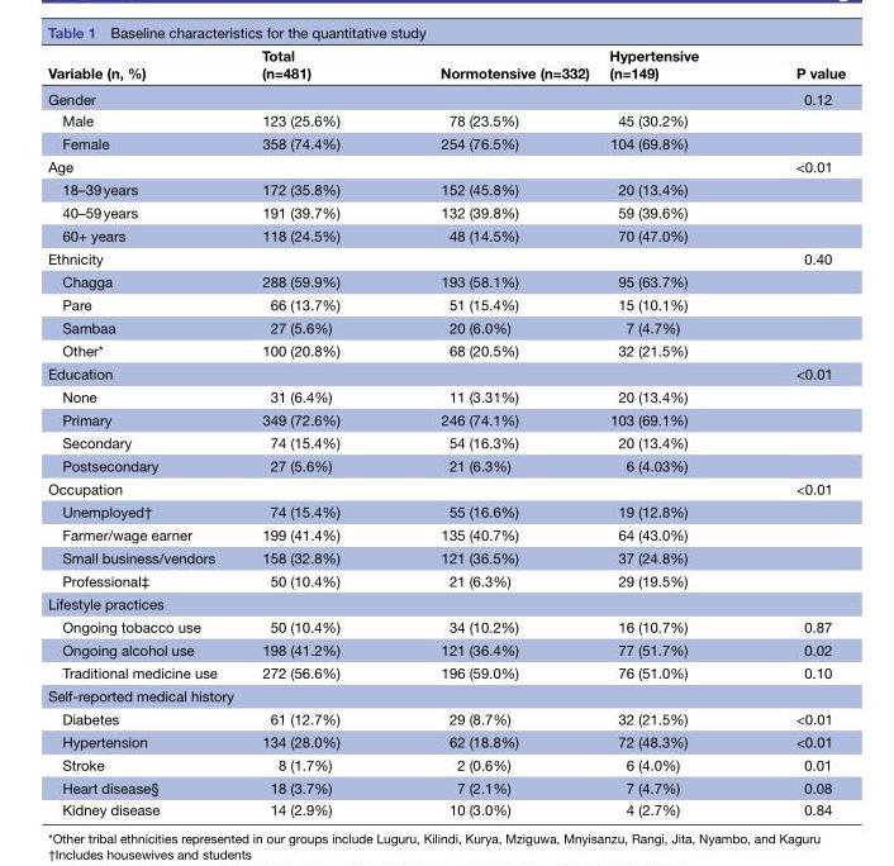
<table><thead><tr><td>Variable (n, %)</td><td>Total (n=481)</td><td>Normotensive (n=332)</td><td>Hypertensive (n=149)</td><td>P value</td></tr></thead><tbody><tr><td>Gender</td><td></td><td></td><td></td><td>0.12</td></tr><tr><td>Male</td><td>123 (25.6%)</td><td>78 (23.5%)</td><td>45 (30.2%)</td><td></td></tr><tr><td>Female</td><td>358 (74.4%)</td><td>254 (76.5%)</td><td>104 (69.8%)</td><td></td></tr><tr><td>Age</td><td></td><td></td><td></td><td>&lt;0.01</td></tr><tr><td>18–39 years</td><td>172 (35.8%)</td><td>152 (45.8%)</td><td>20 (13.4%)</td><td></td></tr><tr><td>40–59 years</td><td>191 (39.7%)</td><td>132 (39.8%)</td><td>59 (39.6%)</td><td></td></tr><tr><td>60+ years</td><td>118 (24.5%)</td><td>48 (14.5%)</td><td>70 (47.0%)</td><td></td></tr><tr><td>Ethnicity</td><td></td><td></td><td></td><td>0.40</td></tr><tr><td>Chagga</td><td>288 (59.9%)</td><td>193 (58.1%)</td><td>95 (63.7%)</td><td></td></tr><tr><td>Pare</td><td>66 (13.7%)</td><td>51 (15.4%)</td><td>15 (10.1%)</td><td></td></tr><tr><td>Sambaa</td><td>27 (5.6%)</td><td>20 (6.0%)</td><td>7 (4.7%)</td><td></td></tr><tr><td>Other*</td><td>100 (20.8%)</td><td>68 (20.5%)</td><td>32 (21.5%)</td><td></td></tr><tr><td>Education</td><td></td><td></td><td></td><td>&lt;0.01</td></tr><tr><td>None</td><td>31 (6.4%)</td><td>11 (3.31%)</td><td>20 (13.4%)</td><td></td></tr><tr><td>Primary</td><td>349 (72.6%)</td><td>246 (74.1%)</td><td>103 (69.1%)</td><td></td></tr><tr><td>Secondary</td><td>74 (15.4%)</td><td>54 (16.3%)</td><td>20 (13.4%)</td><td></td></tr><tr><td>Postsecondary</td><td>27 (5.6%)</td><td>21 (6.3%)</td><td>6 (4.03%)</td><td></td></tr><tr><td>Occupation</td><td></td><td></td><td></td><td>&lt;0.01</td></tr><tr><td>Unemployed†</td><td>74 (15.4%)</td><td>55 (16.6%)</td><td>19 (12.8%)</td><td></td></tr><tr><td>Farmer/wage earner</td><td>199 (41.4%)</td><td>135 (40.7%)</td><td>64 (43.0%)</td><td></td></tr><tr><td>Small business/vendors</td><td>158 (32.8%)</td><td>121 (36.5%)</td><td>37 (24.8%)</td><td></td></tr><tr><td>Professional‡</td><td>50 (10.4%)</td><td>21 (6.3%)</td><td>29 (19.5%)</td><td></td></tr><tr><td colspan="5">Lifestyle practices</td></tr><tr><td>Ongoing tobacco use</td><td>50 (10.4%)</td><td>34 (10.2%)</td><td>16 (10.7%)</td><td>0.87</td></tr><tr><td>Ongoing alcohol use</td><td>198 (41.2%)</td><td>121 (36.4%)</td><td>77 (51.7%)</td><td>0.02</td></tr><tr><td>Traditional medicine use</td><td>272 (56.6%)</td><td>196 (59.0%)</td><td>76 (51.0%)</td><td>0.10</td></tr><tr><td colspan="5">Self-reported medical history</td></tr><tr><td>Diabetes</td><td>61 (12.7%)</td><td>29 (8.7%)</td><td>32 (21.5%)</td><td>&lt;0.01</td></tr><tr><td>Hypertension</td><td>134 (28.0%)</td><td>62 (18.8%)</td><td>72 (48.3%)</td><td>&lt;0.01</td></tr><tr><td>Stroke</td><td>8 (1.7%)</td><td>2 (0.6%)</td><td>6 (4.0%)</td><td>0.01</td></tr><tr><td>Heart disease§</td><td>18 (3.7%)</td><td>7 (2.1%)</td><td>7 (4.7%)</td><td>0.08</td></tr><tr><td>Kidney disease</td><td>14 (2.9%)</td><td>10 (3.0%)</td><td>4 (2.7%)</td><td>0.84</td></tr></tbody></table>